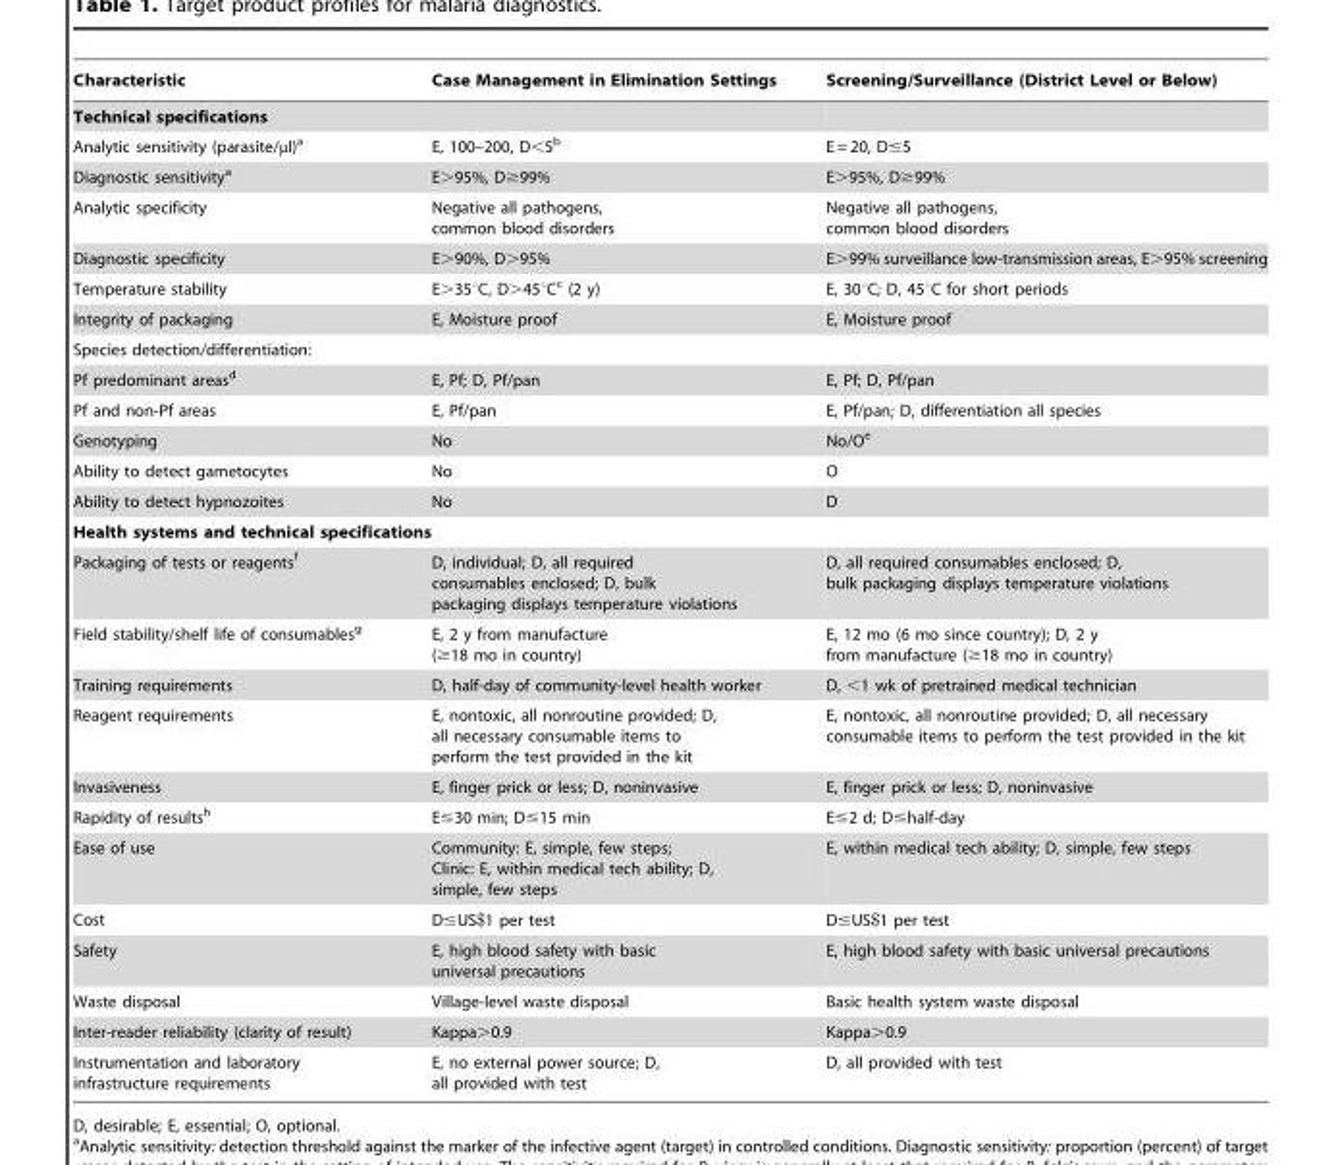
<table><thead><tr><td>Characteristic</td><td>Case Management in Elimination Settings</td><td>Screening/Surveillance (District Level or Below)</td></tr></thead><tbody><tr><td colspan="3">Technical specifications</td></tr><tr><td>Analytic sensitivity (parasite/µl)<sup>a</sup></td><td>E, 100–200, D&lt;5<sup>b</sup></td><td>E = 20, D≤5</td></tr><tr><td>Diagnostic sensitivity<sup>a</sup></td><td>E&gt;95%, D≥99%</td><td>E&gt;95%, D≥99%</td></tr><tr><td>Analytic specificity</td><td>Negative all pathogens, common blood disorders</td><td>Negative all pathogens, common blood disorders</td></tr><tr><td>Diagnostic specificity</td><td>E&gt;90%, D&gt;95%</td><td>E&gt;99% surveillance low-transmission areas, E&gt;95% screening</td></tr><tr><td>Temperature stability</td><td>E&gt;35°C, D&gt;45°C<sup>c</sup> (2 y)</td><td>E, 30°C; D, 45°C for short periods</td></tr><tr><td>Integrity of packaging</td><td>E, Moisture proof</td><td>E, Moisture proof</td></tr><tr><td colspan="3">Species detection/differentiation:</td></tr><tr><td>Pf predominant areas<sup>d</sup></td><td>E, Pf; D, Pf/pan</td><td>E, Pf; D, Pf/pan</td></tr><tr><td>Pf and non-Pf areas</td><td>E, Pf/pan</td><td>E, Pf/pan; D, differentiation all species</td></tr><tr><td>Genotyping</td><td>No</td><td>No/O<sup>e</sup></td></tr><tr><td>Ability to detect gametocytes</td><td>No</td><td>O</td></tr><tr><td>Ability to detect hypnozoites</td><td>No</td><td>D</td></tr><tr><td colspan="3">Health systems and technical specifications</td></tr><tr><td>Packaging of tests or reagents<sup>f</sup></td><td>D, individual; D, all required consumables enclosed; D, bulk packaging displays temperature violations</td><td>D, all required consumables enclosed; D, bulk packaging displays temperature violations</td></tr><tr><td>Field stability/shelf life of consumables<sup>g</sup></td><td>E, 2 y from manufacture (≥18 mo in country)</td><td>E, 12 mo (6 mo since country); D, 2 y from manufacture (≥18 mo in country)</td></tr><tr><td>Training requirements</td><td>D, half-day of community-level health worker</td><td>D, &lt;1 wk of pretrained medical technician</td></tr><tr><td>Reagent requirements</td><td>E, nontoxic, all nonroutine provided; D, all necessary consumable items to perform the test provided in the kit</td><td>E, nontoxic, all nonroutine provided; D, all necessary consumable items to perform the test provided in the kit</td></tr><tr><td>Invasiveness</td><td>E, finger prick or less; D, noninvasive</td><td>E, finger prick or less; D, noninvasive</td></tr><tr><td>Rapidity of results<sup>h</sup></td><td>E≤30 min; D≤15 min</td><td>E≤2 d; D≤half-day</td></tr><tr><td>Ease of use</td><td>Community: E, simple, few steps; Clinic: E, within medical tech ability; D, simple, few steps</td><td>E, within medical tech ability; D, simple, few steps</td></tr><tr><td>Cost</td><td>D≤US$1 per test</td><td>D≤US$1 per test</td></tr><tr><td>Safety</td><td>E, high blood safety with basic universal precautions</td><td>E, high blood safety with basic universal precautions</td></tr><tr><td>Waste disposal</td><td>Village-level waste disposal</td><td>Basic health system waste disposal</td></tr><tr><td>Inter-reader reliability (clarity of result)</td><td>Kappa&gt;0.9</td><td>Kappa&gt;0.9</td></tr><tr><td>Instrumentation and laboratory infrastructure requirements</td><td>E, no external power source; D, all provided with test</td><td>D, all provided with test</td></tr></tbody></table>